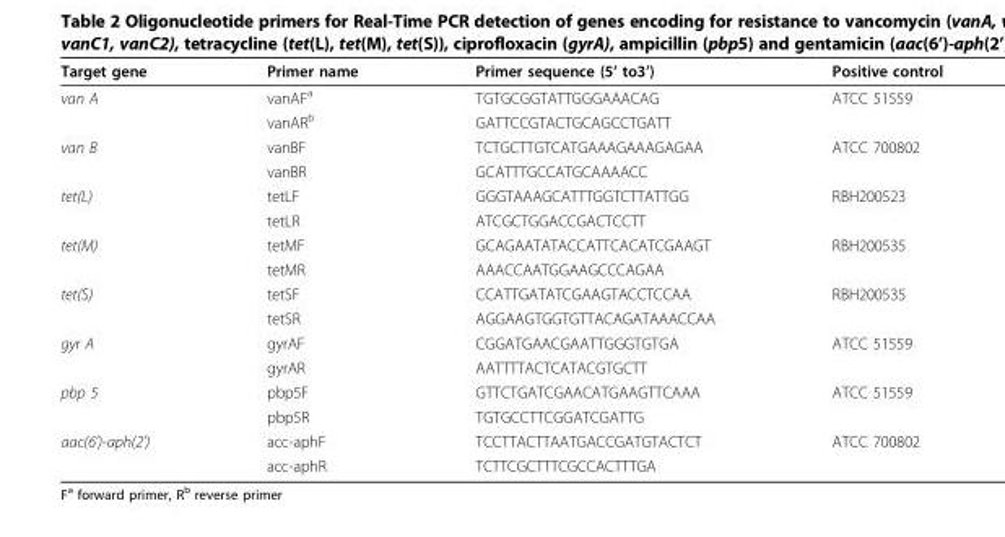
<table><thead><tr><td>Target gene</td><td>Primer name</td><td>Primer sequence (5’ to3’)</td><td>Positive control</td></tr></thead><tbody><tr><td rowspan="2">van A</td><td>vanAF<sup>a</sup></td><td>TGTGCGGTATTGGGAAACAG</td><td>ATCC 51559</td></tr><tr><td>vanAR<sup>b</sup></td><td>GATTCCGTACTGCAGCCTGATT</td><td></td></tr><tr><td rowspan="2">van B</td><td>vanBF</td><td>TCTGCTTGTCATGAAAGAAAGAGAA</td><td>ATCC 700802</td></tr><tr><td>vanBR</td><td>GCATTTGCCATGCAAAACC</td><td></td></tr><tr><td rowspan="2">tet(L)</td><td>tetLF</td><td>GGGTAAAGCATTTGGTCTTATTGG</td><td>RBH200523</td></tr><tr><td>tetLR</td><td>ATCGCTGGACCGACTCCTT</td><td></td></tr><tr><td rowspan="2">tet(M)</td><td>tetMF</td><td>GCAGAATATACCATTCACATCGAAGT</td><td>RBH200535</td></tr><tr><td>tetMR</td><td>AAACCAATGGAAGCCCAGAA</td><td></td></tr><tr><td rowspan="2">tet(S)</td><td>tetSF</td><td>CCATTGATATCGAAGTACCTCCAA</td><td>RBH200535</td></tr><tr><td>tetSR</td><td>AGGAAGTGGTGTTACAGATAAACCAA</td><td></td></tr><tr><td rowspan="2">gyr A</td><td>gyrAF</td><td>CGGATGAACGAATTGGGTGTGA</td><td>ATCC 51559</td></tr><tr><td>gyrAR</td><td>AATTTTACTCATACGTGCTT</td><td></td></tr><tr><td rowspan="2">pbp 5</td><td>pbp5F</td><td>GTTCTGATCGAACATGAAGTTCAAA</td><td>ATCC 51559</td></tr><tr><td>pbp5R</td><td>TGTGCCTTCGGATCGATTG</td><td></td></tr><tr><td rowspan="2">aac(6’)-aph(2’)</td><td>acc-aphF</td><td>TCCTTACTTAATGACCGATGTACTCT</td><td>ATCC 700802</td></tr><tr><td>acc-aphR</td><td>TCTTCGCTTTCGCCACTTTGA</td><td></td></tr></tbody></table>